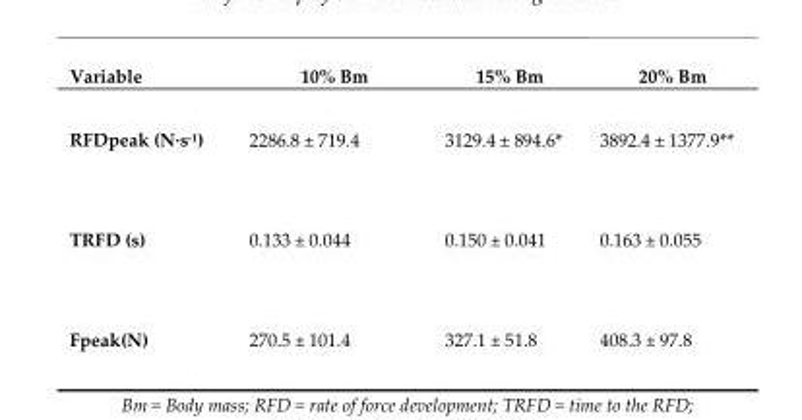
<table><thead><tr><td>Variable</td><td>10% Bm</td><td>15% Bm</td><td>20% Bm</td></tr></thead><tbody><tr><td>RFDpeak (N·s<sup>-1</sup>)</td><td>2286.8 ± 719.4</td><td>3129.4 ± 894.6*</td><td>3892.4 ± 1377.9**</td></tr><tr><td>TRFD (s)</td><td>0.133 ± 0.044</td><td>0.150 ± 0.041</td><td>0.163 ± 0.055</td></tr><tr><td>Fpeak(N)</td><td>270.5 ± 101.4</td><td>327.1 ± 51.8</td><td>408.3 ± 97.8</td></tr></tbody></table>